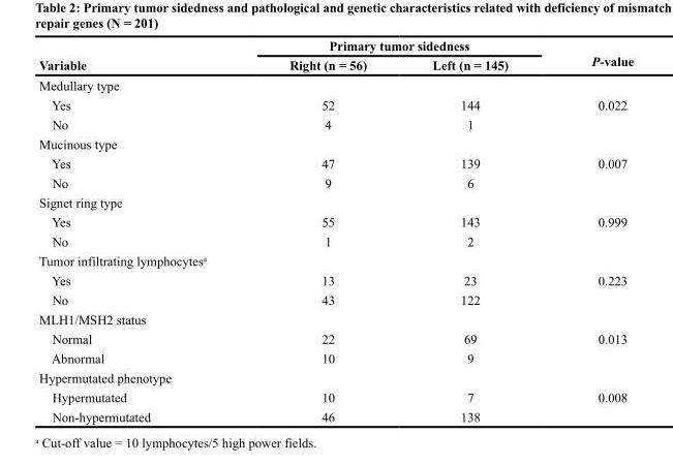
<table><thead><tr><td rowspan="2">Variable</td><td colspan="2">Primary tumor sidedness</td><td rowspan="2">P-value</td></tr><tr><td>Right (n = 56)</td><td>Left (n = 145)</td></tr></thead><tbody><tr><td colspan="4">Medullary type</td></tr><tr><td>Yes</td><td>52</td><td>144</td><td>0.022</td></tr><tr><td>No</td><td>4</td><td>1</td><td></td></tr><tr><td colspan="4">Mucinous type</td></tr><tr><td>Yes</td><td>47</td><td>139</td><td>0.007</td></tr><tr><td>No</td><td>9</td><td>6</td><td></td></tr><tr><td colspan="4">Signet ring type</td></tr><tr><td>Yes</td><td>55</td><td>143</td><td>0.999</td></tr><tr><td>No</td><td>1</td><td>2</td><td></td></tr><tr><td colspan="4">Tumor infiltrating lymphocytes<sup>a</sup></td></tr><tr><td>Yes</td><td>13</td><td>23</td><td>0.223</td></tr><tr><td>No</td><td>43</td><td>122</td><td></td></tr><tr><td colspan="4">MLH1/MSH2 status</td></tr><tr><td>Normal</td><td>22</td><td>69</td><td>0.013</td></tr><tr><td>Abnormal</td><td>10</td><td>9</td><td></td></tr><tr><td colspan="4">Hypermutated phenotype</td></tr><tr><td>Hypermutated</td><td>10</td><td>7</td><td>0.008</td></tr><tr><td>Non-hypermutated</td><td>46</td><td>138</td><td></td></tr></tbody></table>